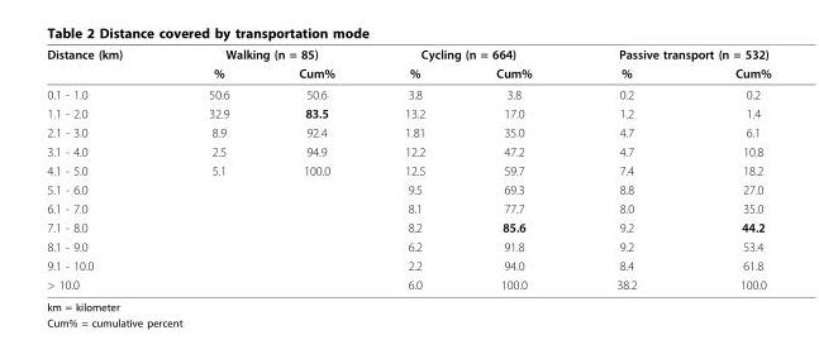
<table><thead><tr><td rowspan="2">Distance (km)</td><td colspan="2">Walking (n = 85)</td><td colspan="2">Cycling (n = 664)</td><td colspan="2">Passive transport (n = 532)</td></tr><tr><td>%</td><td>Cum%</td><td>%</td><td>Cum%</td><td>%</td><td>Cum%</td></tr></thead><tbody><tr><td>0.1 - 1.0</td><td>50.6</td><td>50.6</td><td>3.8</td><td>3.8</td><td>0.2</td><td>0.2</td></tr><tr><td>1.1 - 2.0</td><td>32.9</td><td>83.5</td><td>13.2</td><td>17.0</td><td>1.2</td><td>1.4</td></tr><tr><td>2.1 - 3.0</td><td>8.9</td><td>92.4</td><td>1.81</td><td>35.0</td><td>4.7</td><td>6.1</td></tr><tr><td>3.1 - 4.0</td><td>2.5</td><td>94.9</td><td>12.2</td><td>47.2</td><td>4.7</td><td>10.8</td></tr><tr><td>4.1 - 5.0</td><td>5.1</td><td>100.0</td><td>12.5</td><td>59.7</td><td>7.4</td><td>18.2</td></tr><tr><td>5.1 - 6.0</td><td></td><td></td><td>9.5</td><td>69.3</td><td>8.8</td><td>27.0</td></tr><tr><td>6.1 - 7.0</td><td></td><td></td><td>8.1</td><td>77.7</td><td>8.0</td><td>35.0</td></tr><tr><td>7.1 - 8.0</td><td></td><td></td><td>8.2</td><td>85.6</td><td>9.2</td><td>44.2</td></tr><tr><td>8.1 - 9.0</td><td></td><td></td><td>6.2</td><td>91.8</td><td>9.2</td><td>53.4</td></tr><tr><td>9.1 - 10.0</td><td></td><td></td><td>2.2</td><td>94.0</td><td>8.4</td><td>61.8</td></tr><tr><td>&gt; 10.0</td><td></td><td></td><td>6.0</td><td>100.0</td><td>38.2</td><td>100.0</td></tr></tbody></table>